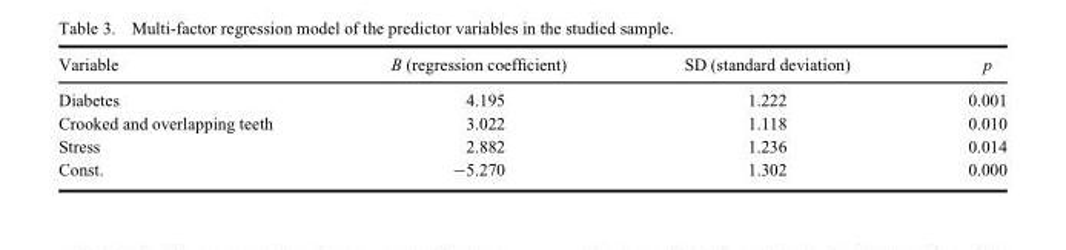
<table><thead><tr><td>Variable</td><td>B (regression coefficient)</td><td>SD (standard deviation)</td><td>p</td></tr></thead><tbody><tr><td>Diabetes</td><td>4.195</td><td>1.222</td><td>0.001</td></tr><tr><td>Crooked and overlapping teeth</td><td>3.022</td><td>1.118</td><td>0.010</td></tr><tr><td>Stress</td><td>2.882</td><td>1.236</td><td>0.014</td></tr><tr><td>Const.</td><td>−5.270</td><td>1.302</td><td>0.000</td></tr></tbody></table>